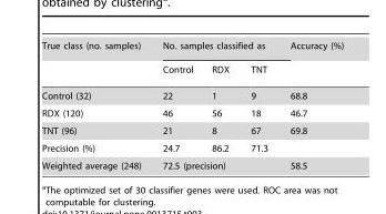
<table><tbody><tr><td rowspan="2">True class (no. samples)</td><td colspan="3">No. samples classified as</td><td>Accuracy (%)</td></tr><tr><td>Control</td><td>RDX</td><td>TNT</td><td></td></tr><tr><td>Control (32)</td><td>22</td><td>1</td><td>9</td><td>68.8</td></tr><tr><td>RDX (120)</td><td>46</td><td>56</td><td>18</td><td>46.7</td></tr><tr><td>TNT (96)</td><td>21</td><td>8</td><td>67</td><td>69.8</td></tr><tr><td>Precision (%)</td><td>24.7</td><td>86.2</td><td>71.3</td><td></td></tr><tr><td>Weighted average (248)</td><td colspan="3">72.5 (precision)</td><td>58.5</td></tr></tbody></table>